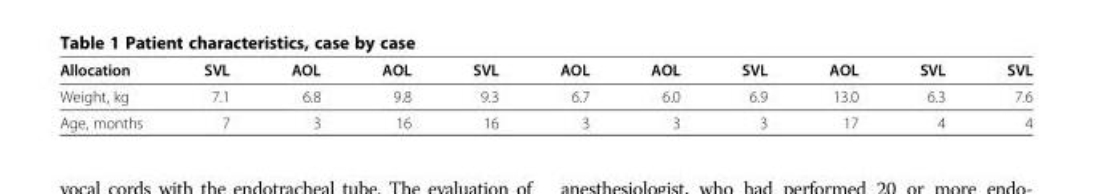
<table><thead><tr><td>Allocation</td><td>SVL</td><td>AOL</td><td>AOL</td><td>SVL</td><td>AOL</td><td>AOL</td><td>SVL</td><td>AOL</td><td>SVL</td><td>SVL</td></tr></thead><tbody><tr><td>Weight, kg</td><td>7.1</td><td>6.8</td><td>9.8</td><td>9.3</td><td>6.7</td><td>6.0</td><td>6.9</td><td>13.0</td><td>6.3</td><td>7.6</td></tr><tr><td>Age, months</td><td>7</td><td>3</td><td>16</td><td>16</td><td>3</td><td>3</td><td>3</td><td>17</td><td>4</td><td>4</td></tr></tbody></table>